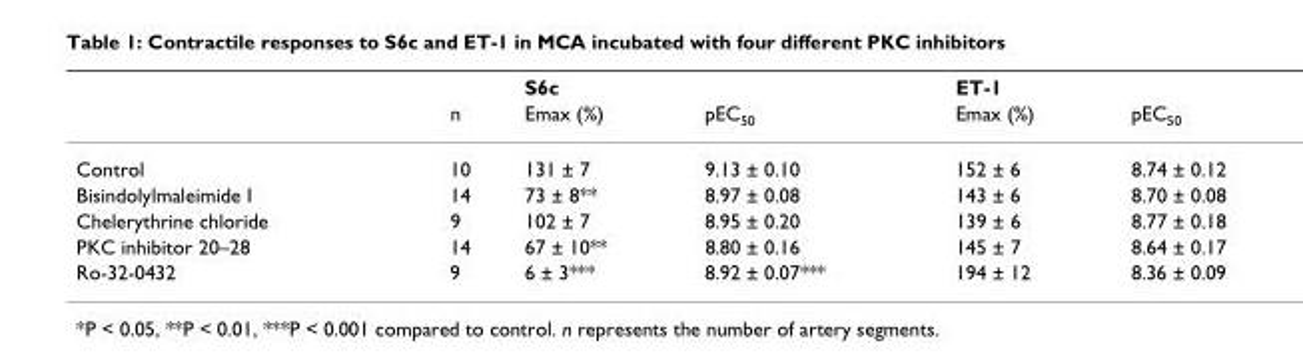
<table><thead><tr><td rowspan="2"></td><td rowspan="2">n</td><td rowspan="2">S6c Emax (%)</td><td rowspan="2">pEC<sub>50</sub></td><td rowspan="2">ET-1 Emax (%)</td><td rowspan="2">pEC<sub>50</sub></td></tr><tr></tr></thead><tbody><tr><td>Control</td><td>10</td><td>131 ± 7</td><td>9.13 ± 0.10</td><td>152 ± 6</td><td>8.74 ± 0.12</td></tr><tr><td>Bisindolylmaleimide I</td><td>14</td><td>73 ± 8**</td><td>8.97 ± 0.08</td><td>143 ± 6</td><td>8.70 ± 0.08</td></tr><tr><td>Chelerythrine chloride</td><td>9</td><td>102 ± 7</td><td>8.95 ± 0.20</td><td>139 ± 6</td><td>8.77 ± 0.18</td></tr><tr><td>PKC inhibitor 20–28</td><td>14</td><td>67 ± 10**</td><td>8.80 ± 0.16</td><td>145 ± 7</td><td>8.64 ± 0.17</td></tr><tr><td>Ro-32-0432</td><td>9</td><td>6 ± 3***</td><td>8.92 ± 0.07***</td><td>194 ± 12</td><td>8.36 ± 0.09</td></tr></tbody></table>